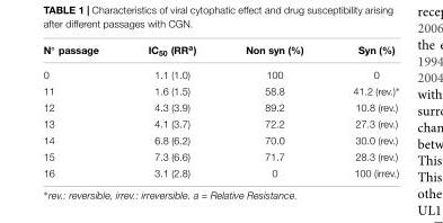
<table><thead><tr><td>N◦ passage</td><td>IC<sub>50</sub> (RR<sup>a</sup>)</td><td>Non syn (%)</td><td>Syn (%)</td></tr></thead><tbody><tr><td>0</td><td>1.1 (1.0)</td><td>100</td><td>0</td></tr><tr><td>11</td><td>1.6 (1.5)</td><td>58.8</td><td>41.2 (rev.)∗</td></tr><tr><td>12</td><td>4.3 (3.9)</td><td>89.2</td><td>10.8 (rev.)</td></tr><tr><td>13</td><td>4.1 (3.7)</td><td>72.2</td><td>27.3 (rev.)</td></tr><tr><td>14</td><td>6.8 (6.2)</td><td>70.0</td><td>30.0 (rev.)</td></tr><tr><td>15</td><td>7.3 (6.6)</td><td>71.7</td><td>28.3 (rev.)</td></tr><tr><td>16</td><td>3.1 (2.8)</td><td>0</td><td>100 (irrev.)</td></tr></tbody></table>